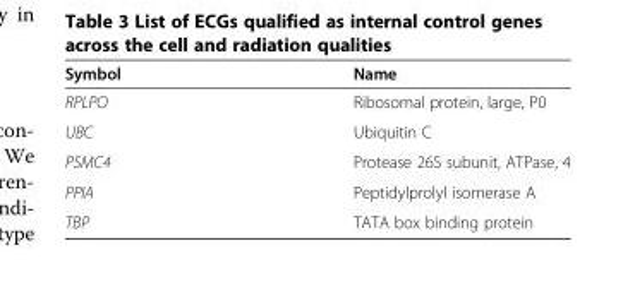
<table><thead><tr><td>Symbol</td><td>Name</td></tr></thead><tbody><tr><td>RPLPO</td><td>Ribosomal protein, large, P0</td></tr><tr><td>UBC</td><td>Ubiquitin C</td></tr><tr><td>PSMC4</td><td>Protease 26S subunit, ATPase, 4</td></tr><tr><td>PPIA</td><td>Peptidylprolyl isomerase A</td></tr><tr><td>TBP</td><td>TATA box binding protein</td></tr></tbody></table>